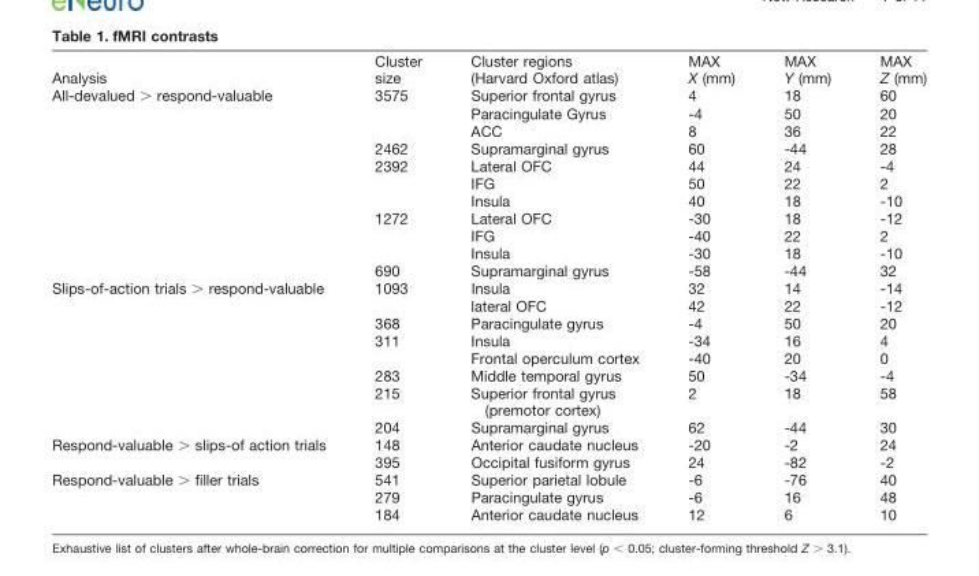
<table><thead><tr><td>Analysis</td><td>Cluster size</td><td>Cluster regions (Harvard Oxford atlas)</td><td>MAX X (mm)</td><td>MAX Y (mm)</td><td>MAX Z (mm)</td></tr></thead><tbody><tr><td rowspan="11">All-devalued &gt; respond-valuable</td><td rowspan="3">3575</td><td>Superior frontal gyrus</td><td>4</td><td>18</td><td>60</td></tr><tr><td>Paracingulate Gyrus</td><td>-4</td><td>50</td><td>20</td></tr><tr><td>ACC</td><td>8</td><td>36</td><td>22</td></tr><tr><td>2462</td><td>Supramarginal gyrus</td><td>60</td><td>-44</td><td>28</td></tr><tr><td rowspan="3">2392</td><td>Lateral OFC</td><td>44</td><td>24</td><td>-4</td></tr><tr><td>IFG</td><td>50</td><td>22</td><td>2</td></tr><tr><td>Insula</td><td>40</td><td>18</td><td>-10</td></tr><tr><td rowspan="3">1272</td><td>Lateral OFC</td><td>-30</td><td>18</td><td>-12</td></tr><tr><td>IFG</td><td>-40</td><td>22</td><td>2</td></tr><tr><td>Insula</td><td>-30</td><td>18</td><td>-10</td></tr><tr><td>690</td><td>Supramarginal gyrus</td><td>-58</td><td>-44</td><td>32</td></tr><tr><td rowspan="8">Slips-of-action trials &gt; respond-valuable</td><td>1093</td><td>Insula</td><td>32</td><td>14</td><td>-14</td></tr><tr><td></td><td>lateral OFC</td><td>42</td><td>22</td><td>-12</td></tr><tr><td>368</td><td>Paracingulate gyrus</td><td>-4</td><td>50</td><td>20</td></tr><tr><td>311</td><td>Insula</td><td>-34</td><td>16</td><td>4</td></tr><tr><td></td><td>Frontal operculum cortex</td><td>-40</td><td>20</td><td>0</td></tr><tr><td>283</td><td>Middle temporal gyrus</td><td>50</td><td>-34</td><td>-4</td></tr><tr><td>215</td><td>Superior frontal gyrus (premotor cortex)</td><td>2</td><td>18</td><td>58</td></tr><tr><td>204</td><td>Supramarginal gyrus</td><td>62</td><td>-44</td><td>30</td></tr><tr><td rowspan="2">Respond-valuable &gt; slips-of action trials</td><td>148</td><td>Anterior caudate nucleus</td><td>-20</td><td>-2</td><td>24</td></tr><tr><td>395</td><td>Occipital fusiform gyrus</td><td>24</td><td>-82</td><td>-2</td></tr><tr><td rowspan="3">Respond-valuable &gt; filler trials</td><td>541</td><td>Superior parietal lobule</td><td>-6</td><td>-76</td><td>40</td></tr><tr><td>279</td><td>Paracingulate gyrus</td><td>-6</td><td>16</td><td>48</td></tr><tr><td>184</td><td>Anterior caudate nucleus</td><td>12</td><td>6</td><td>10</td></tr></tbody></table>